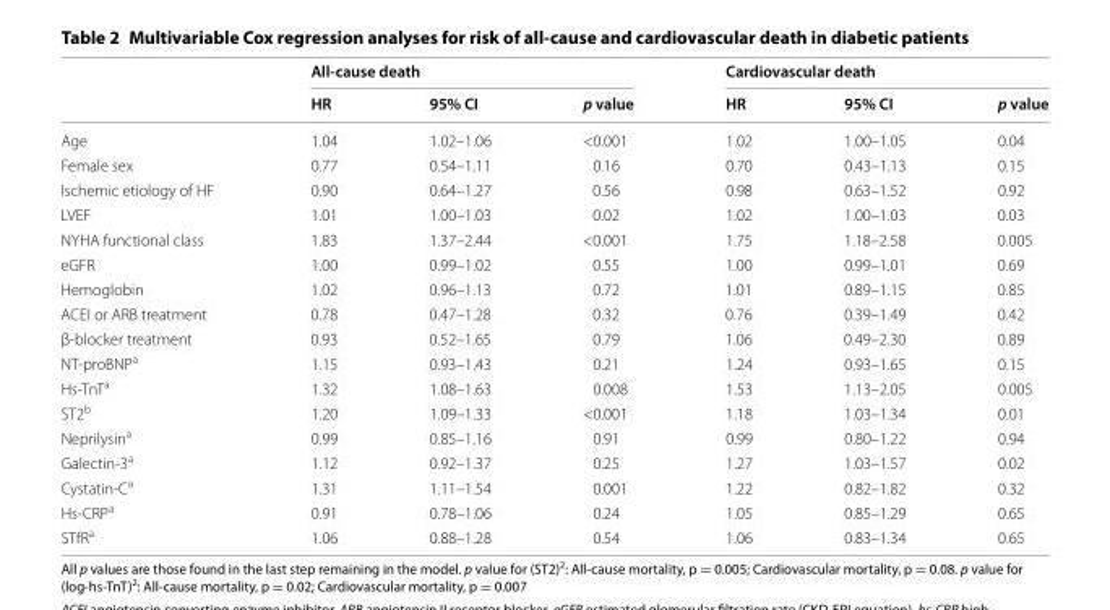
<table><thead><tr><td rowspan="2"></td><td colspan="3">All‑cause death</td><td colspan="3">Cardiovascular death</td></tr><tr><td>HR</td><td>95% CI</td><td>p value</td><td>HR</td><td>95% CI</td><td>p value</td></tr></thead><tbody><tr><td>Age</td><td>1.04</td><td>1.02–1.06</td><td>&lt;0.001</td><td>1.02</td><td>1.00–1.05</td><td>0.04</td></tr><tr><td>Female sex</td><td>0.77</td><td>0.54–1.11</td><td>0.16</td><td>0.70</td><td>0.43–1.13</td><td>0.15</td></tr><tr><td>Ischemic etiology of HF</td><td>0.90</td><td>0.64–1.27</td><td>0.56</td><td>0.98</td><td>0.63–1.52</td><td>0.92</td></tr><tr><td>LVEF</td><td>1.01</td><td>1.00–1.03</td><td>0.02</td><td>1.02</td><td>1.00–1.03</td><td>0.03</td></tr><tr><td>NYHA functional class</td><td>1.83</td><td>1.37–2.44</td><td>&lt;0.001</td><td>1.75</td><td>1.18–2.58</td><td>0.005</td></tr><tr><td>eGFR</td><td>1.00</td><td>0.99–1.02</td><td>0.55</td><td>1.00</td><td>0.99–1.01</td><td>0.69</td></tr><tr><td>Hemoglobin</td><td>1.02</td><td>0.96–1.13</td><td>0.72</td><td>1.01</td><td>0.89–1.15</td><td>0.85</td></tr><tr><td>ACEI or ARB treatment</td><td>0.78</td><td>0.47–1.28</td><td>0.32</td><td>0.76</td><td>0.39–1.49</td><td>0.42</td></tr><tr><td>β‑blocker treatment</td><td>0.93</td><td>0.52–1.65</td><td>0.79</td><td>1.06</td><td>0.49–2.30</td><td>0.89</td></tr><tr><td>NT‑proBNP<sup>a</sup></td><td>1.15</td><td>0.93–1.43</td><td>0.21</td><td>1.24</td><td>0.93–1.65</td><td>0.15</td></tr><tr><td>Hs‑TnT<sup>a</sup></td><td>1.32</td><td>1.08–1.63</td><td>0.008</td><td>1.53</td><td>1.13–2.05</td><td>0.005</td></tr><tr><td>ST2<sup>b</sup></td><td>1.20</td><td>1.09–1.33</td><td>&lt;0.001</td><td>1.18</td><td>1.03–1.34</td><td>0.01</td></tr><tr><td>Neprilysin<sup>a</sup></td><td>0.99</td><td>0.85–1.16</td><td>0.91</td><td>0.99</td><td>0.80–1.22</td><td>0.94</td></tr><tr><td>Galectin‑3<sup>a</sup></td><td>1.12</td><td>0.92–1.37</td><td>0.25</td><td>1.27</td><td>1.03–1.57</td><td>0.02</td></tr><tr><td>Cystatin‑C<sup>a</sup></td><td>1.31</td><td>1.11–1.54</td><td>0.001</td><td>1.22</td><td>0.82–1.82</td><td>0.32</td></tr><tr><td>Hs‑CRP<sup>a</sup></td><td>0.91</td><td>0.78–1.06</td><td>0.24</td><td>1.05</td><td>0.85–1.29</td><td>0.65</td></tr><tr><td>STfR<sup>a</sup></td><td>1.06</td><td>0.88–1.28</td><td>0.54</td><td>1.06</td><td>0.83–1.34</td><td>0.65</td></tr></tbody></table>